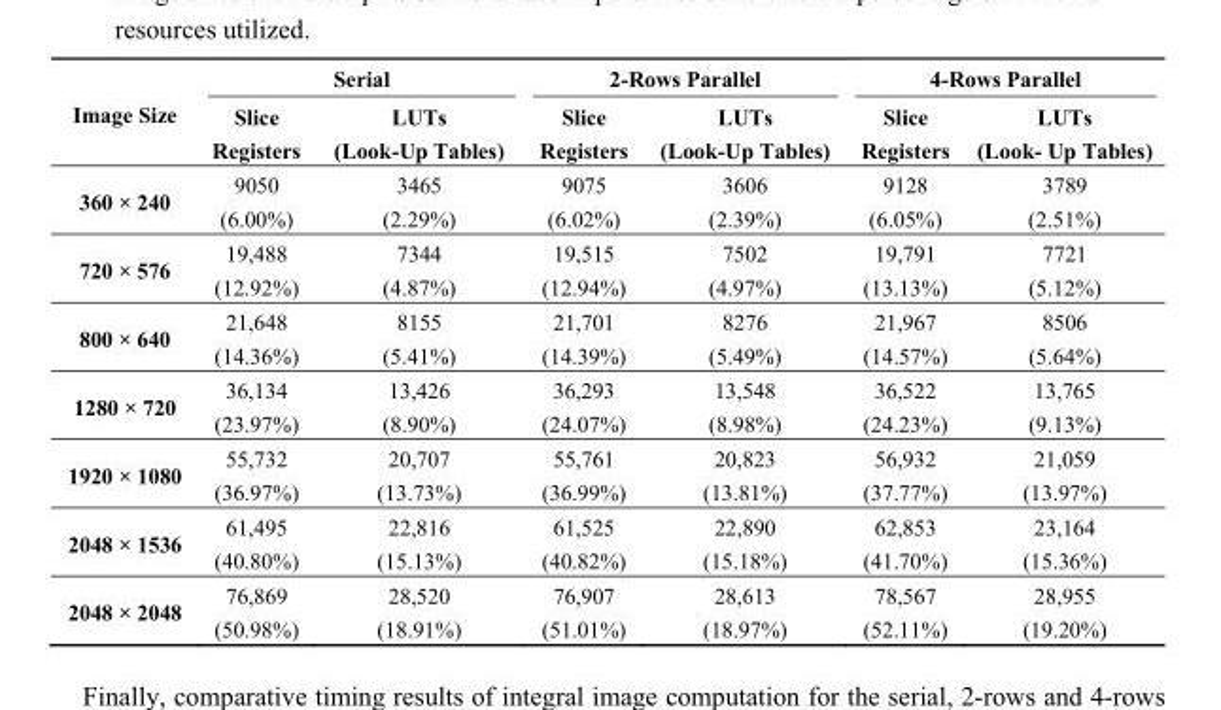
<table><thead><tr><td rowspan="2">Image Size</td><td colspan="2">Serial</td><td colspan="2">2-Rows Parallel</td><td colspan="2">4-Rows Parallel</td></tr><tr><td>Slice Registers</td><td>LUTs (Look-Up Tables)</td><td>Slice Registers</td><td>LUTs (Look-Up Tables)</td><td>Slice Registers</td><td>LUTs (Look- Up Tables)</td></tr></thead><tbody><tr><td>360 × 240</td><td>9050 (6.00%)</td><td>3465 (2.29%)</td><td>9075 (6.02%)</td><td>3606 (2.39%)</td><td>9128 (6.05%)</td><td>3789 (2.51%)</td></tr><tr><td>720 × 576</td><td>19,488 (12.92%)</td><td>7344 (4.87%)</td><td>19,515 (12.94%)</td><td>7502 (4.97%)</td><td>19,791 (13.13%)</td><td>7721 (5.12%)</td></tr><tr><td>800 × 640</td><td>21,648 (14.36%)</td><td>8155 (5.41%)</td><td>21,701 (14.39%)</td><td>8276 (5.49%)</td><td>21,967 (14.57%)</td><td>8506 (5.64%)</td></tr><tr><td>1280 × 720</td><td>36,134 (23.97%)</td><td>13,426 (8.90%)</td><td>36,293 (24.07%)</td><td>13,548 (8.98%)</td><td>36,522 (24.23%)</td><td>13,765 (9.13%)</td></tr><tr><td>1920 × 1080</td><td>55,732 (36.97%)</td><td>20,707 (13.73%)</td><td>55,761 (36.99%)</td><td>20,823 (13.81%)</td><td>56,932 (37.77%)</td><td>21,059 (13.97%)</td></tr><tr><td>2048 × 1536</td><td>61,495 (40.80%)</td><td>22,816 (15.13%)</td><td>61,525 (40.82%)</td><td>22,890 (15.18%)</td><td>62,853 (41.70%)</td><td>23,164 (15.36%)</td></tr><tr><td>2048 × 2048</td><td>76,869 (50.98%)</td><td>28,520 (18.91%)</td><td>76,907 (51.01%)</td><td>28,613 (18.97%)</td><td>78,567 (52.11%)</td><td>28,955 (19.20%)</td></tr></tbody></table>